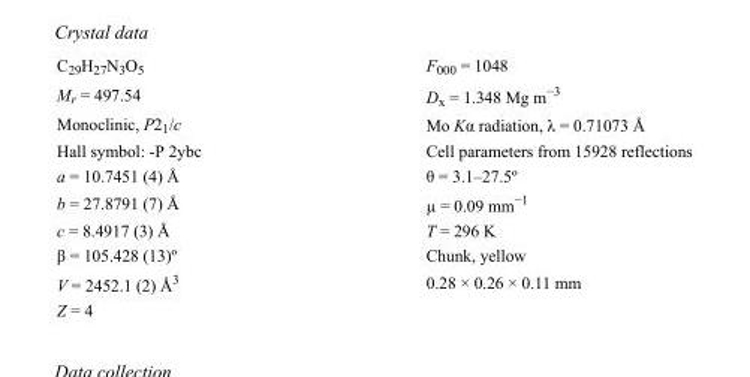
<table><tbody><tr><td>C<sub>29</sub>H<sub>27</sub>N<sub>3</sub>O<sub>5</sub></td><td>F000 = 1048</td></tr><tr><td>M<sub>r</sub> = 497.54</td><td>D<sub>x</sub> = 1.348 Mg m<sup>−3</sup></td></tr><tr><td>Monoclinic, P2<sub>1</sub>/c</td><td>Mo Kα radiation, λ = 0.71073 Å</td></tr><tr><td>Hall symbol: -P 2ybc</td><td>Cell parameters from 15928 reflections</td></tr><tr><td>a = 10.7451 (4) Å</td><td>θ = 3.1–27.5º</td></tr><tr><td>b = 27.8791 (7) Å</td><td>µ = 0.09 mm<sup>−1</sup></td></tr><tr><td>c = 8.4917 (3) Å</td><td>T = 296 K</td></tr><tr><td>β = 105.428 (13)º</td><td>Chunk, yellow</td></tr><tr><td>V = 2452.1 (2) Å<sup>3</sup></td><td>0.28 × 0.26 × 0.11 mm</td></tr><tr><td>Z = 4</td><td></td></tr></tbody></table>